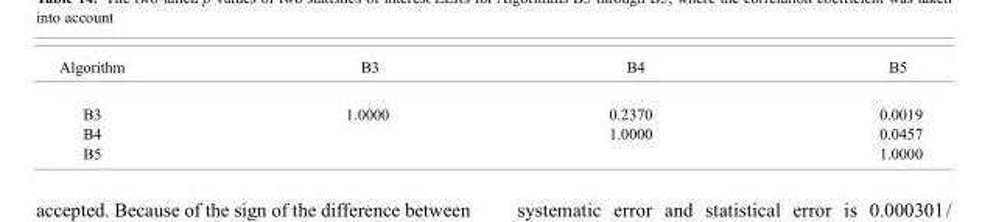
<table><thead><tr><td>Algorithm</td><td>B3</td><td>B4</td><td>B5</td></tr></thead><tbody><tr><td>B3</td><td>1.0000</td><td>0.2370</td><td>0.0019</td></tr><tr><td>B4</td><td></td><td>1.0000</td><td>0.0457</td></tr><tr><td>B5</td><td></td><td></td><td>1.0000</td></tr></tbody></table>